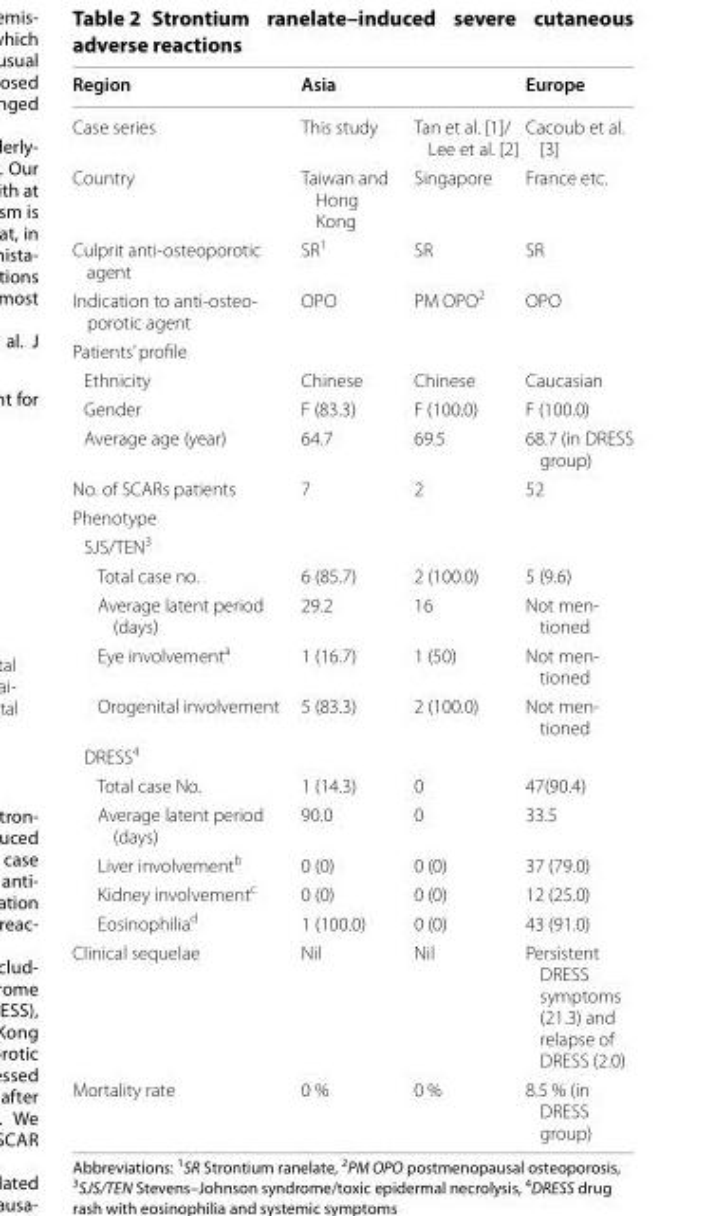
<table><thead><tr><td rowspan="2">Region Case series</td><td colspan="2">Asia</td><td rowspan="2">Europe Cacoub et al. [3]</td></tr><tr><td>This study</td><td>Tan et al. [1]/ Lee et al. [2]</td></tr></thead><tbody><tr><td>Country</td><td>Taiwan and Hong Kong</td><td>Singapore</td><td>France etc.</td></tr><tr><td>Culprit anti‑osteoporotic agent</td><td>SR<sup>1</sup></td><td>SR</td><td>SR</td></tr><tr><td>Indication to anti‑osteo‑ porotic agent</td><td>OPO</td><td>PM OPO<sup>2</sup></td><td>OPO</td></tr><tr><td colspan="4">Patients’ profile</td></tr><tr><td>Ethnicity</td><td>Chinese</td><td>Chinese</td><td>Caucasian</td></tr><tr><td>Gender</td><td>F (83.3)</td><td>F (100.0)</td><td>F (100.0)</td></tr><tr><td>Average age (year)</td><td>64.7</td><td>69.5</td><td>68.7 (in DRESS group)</td></tr><tr><td>No. of SCARs patients</td><td>7</td><td>2</td><td>52</td></tr><tr><td colspan="4">Phenotype</td></tr><tr><td colspan="4">SJS/TEN<sup>3</sup></td></tr><tr><td>Total case no.</td><td>6 (85.7)</td><td>2 (100.0)</td><td>5 (9.6)</td></tr><tr><td>Average latent period (days)</td><td>29.2</td><td>16</td><td>Not men‑ tioned</td></tr><tr><td>Eye involvement<sup>a</sup></td><td>1 (16.7)</td><td>1 (50)</td><td>Not men‑ tioned</td></tr><tr><td>Orogenital involvement</td><td>5 (83.3)</td><td>2 (100.0)</td><td>Not men‑ tioned</td></tr><tr><td colspan="4">DRESS<sup>4</sup></td></tr><tr><td>Total case No.</td><td>1 (14.3)</td><td>0</td><td>47(90.4)</td></tr><tr><td>Average latent period (days)</td><td>90.0</td><td>0</td><td>33.5</td></tr><tr><td>Liver involvement<sup>b</sup></td><td>0 (0)</td><td>0 (0)</td><td>37 (79.0)</td></tr><tr><td>Kidney involvement<sup>c</sup></td><td>0 (0)</td><td>0 (0)</td><td>12 (25.0)</td></tr><tr><td>Eosinophilia<sup>d</sup></td><td>1 (100.0)</td><td>0 (0)</td><td>43 (91.0)</td></tr><tr><td>Clinical sequelae</td><td>Nil</td><td>Nil</td><td>Persistent DRESS symptoms (21.3) and relapse of DRESS (2.0)</td></tr><tr><td>Mortality rate</td><td>0 %</td><td>0 %</td><td>8.5 % (in DRESS group)</td></tr></tbody></table>